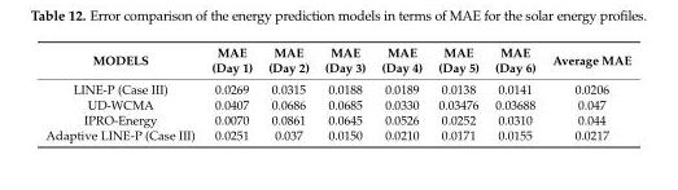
<table><thead><tr><td>MODELS</td><td>MAE (Day 1)</td><td>MAE (Day 2)</td><td>MAE (Day 3)</td><td>MAE (Day 4)</td><td>MAE (Day 5)</td><td>MAE (Day 6)</td><td>Average MAE</td></tr></thead><tbody><tr><td>LINE-P (Case III)</td><td>0.0269</td><td>0.0315</td><td>0.0188</td><td>0.0189</td><td>0.0138</td><td>0.0141</td><td>0.0206</td></tr><tr><td>UD-WCMA</td><td>0.0407</td><td>0.0686</td><td>0.0685</td><td>0.0330</td><td>0.03476</td><td>0.03688</td><td>0.047</td></tr><tr><td>IPRO-Energy</td><td>0.0070</td><td>0.0861</td><td>0.0645</td><td>0.0526</td><td>0.0252</td><td>0.0310</td><td>0.044</td></tr><tr><td>Adaptive LINE-P (Case III)</td><td>0.0251</td><td>0.037</td><td>0.0150</td><td>0.0210</td><td>0.0171</td><td>0.0155</td><td>0.0217</td></tr></tbody></table>